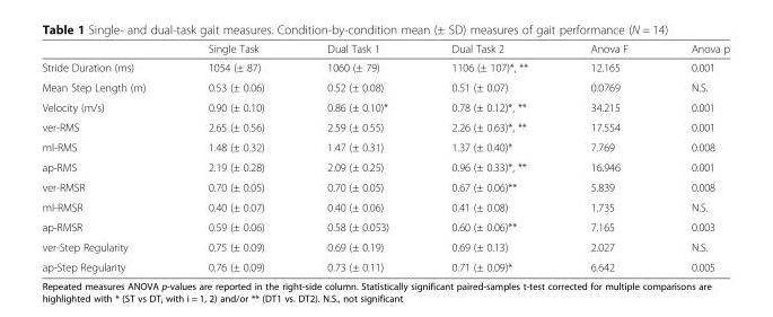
<table><thead><tr><td></td><td>Single Task</td><td>Dual Task 1</td><td>Dual Task 2</td><td>Anova F</td><td>Anova p</td></tr></thead><tbody><tr><td>Stride Duration (ms)</td><td>1054 (± 87)</td><td>1060 (± 79)</td><td>1106 (± 107)*, **</td><td>12.165</td><td>0.001</td></tr><tr><td>Mean Step Length (m)</td><td>0.53 (± 0.06)</td><td>0.52 (± 0.08)</td><td>0.51 (± 0.07)</td><td>0.0769</td><td>N.S.</td></tr><tr><td>Velocity (m/s)</td><td>0.90 (± 0.10)</td><td>0.86 (± 0.10)*</td><td>0.78 (± 0.12)*, **</td><td>34.215</td><td>0.001</td></tr><tr><td>ver-RMS</td><td>2.65 (± 0.56)</td><td>2.59 (± 0.55)</td><td>2.26 (± 0.63)*, **</td><td>17.554</td><td>0.001</td></tr><tr><td>ml-RMS</td><td>1.48 (± 0.32)</td><td>1.47 (± 0.31)</td><td>1.37 (± 0.40)*</td><td>7.769</td><td>0.008</td></tr><tr><td>ap-RMS</td><td>2.19 (± 0.28)</td><td>2.09 (± 0.25)</td><td>0.96 (± 0.33)*, **</td><td>16.946</td><td>0.001</td></tr><tr><td>ver-RMSR</td><td>0.70 (± 0.05)</td><td>0.70 (± 0.05)</td><td>0.67 (± 0.06)**</td><td>5.839</td><td>0.008</td></tr><tr><td>ml-RMSR</td><td>0.40 (± 0.07)</td><td>0.40 (± 0.06)</td><td>0.41 (± 0.08)</td><td>1.735</td><td>N.S.</td></tr><tr><td>ap-RMSR</td><td>0.59 (± 0.06)</td><td>0.58 (± 0.053)</td><td>0.60 (± 0.06)**</td><td>7.165</td><td>0.003</td></tr><tr><td>ver-Step Regularity</td><td>0.75 (± 0.09)</td><td>0.69 (± 0.19)</td><td>0.69 (± 0.13)</td><td>2.027</td><td>N.S.</td></tr><tr><td>ap-Step Regularity</td><td>0.76 (± 0.09)</td><td>0.73 (± 0.11)</td><td>0.71 (± 0.09)*</td><td>6.642</td><td>0.005</td></tr></tbody></table>